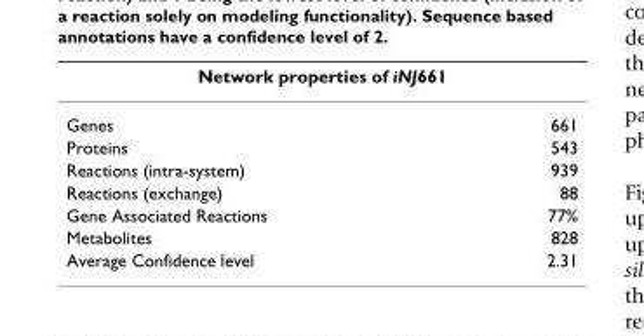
<table><thead><tr><td colspan="2">Network properties of iNJ661</td></tr><tr><td>Genes</td><td>661</td></tr></thead><tbody><tr><td>Proteins</td><td>543</td></tr><tr><td>Reactions (intra-system)</td><td>939</td></tr><tr><td>Reactions (exchange)</td><td>88</td></tr><tr><td>Gene Associated Reactions</td><td>77%</td></tr><tr><td>Metabolites</td><td>828</td></tr><tr><td>Average Confidence level</td><td>2.31</td></tr></tbody></table>